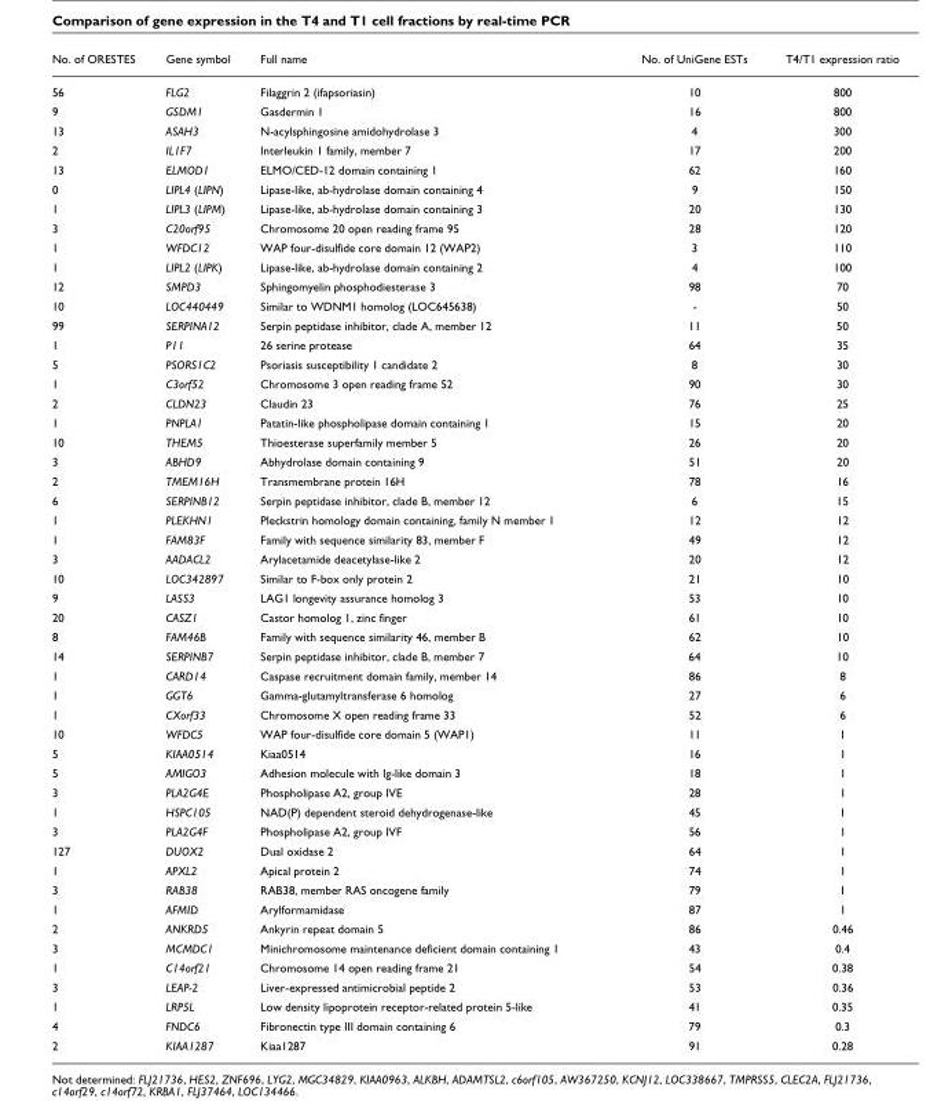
<table><thead><tr><td>No. of ORESTES</td><td>Gene symbol</td><td>Full name</td><td>No. of UniGene ESTs</td><td>T4/T1 expression ratio</td></tr></thead><tbody><tr><td>56</td><td>FLG2</td><td>Filaggrin 2 (ifapsoriasin)</td><td>10</td><td>800</td></tr><tr><td>9</td><td>GSDM1</td><td>Gasdermin 1</td><td>16</td><td>800</td></tr><tr><td>13</td><td>ASAH3</td><td>N-acylsphingosine amidohydrolase 3</td><td>4</td><td>300</td></tr><tr><td>2</td><td>IL1F7</td><td>Interleukin 1 family, member 7</td><td>17</td><td>200</td></tr><tr><td>13</td><td>ELMOD1</td><td>ELMO/CED-12 domain containing 1</td><td>62</td><td>160</td></tr><tr><td>0</td><td>LIPL4 (LIPN)</td><td>Lipase-like, ab-hydrolase domain containing 4</td><td>9</td><td>150</td></tr><tr><td>1</td><td>LIPL3 (LIPM)</td><td>Lipase-like, ab-hydrolase domain containing 3</td><td>20</td><td>130</td></tr><tr><td>3</td><td>C20orf95</td><td>Chromosome 20 open reading frame 95</td><td>28</td><td>120</td></tr><tr><td>1</td><td>WFDC12</td><td>WAP four-disulfide core domain 12 (WAP2)</td><td>3</td><td>110</td></tr><tr><td>1</td><td>LIPL2 (LIPK)</td><td>Lipase-like, ab-hydrolase domain containing 2</td><td>4</td><td>100</td></tr><tr><td>12</td><td>SMPD3</td><td>Sphingomyelin phosphodiesterase 3</td><td>98</td><td>70</td></tr><tr><td>10</td><td>LOC440449</td><td>Similar to WDNM1 homolog (LOC645638)</td><td>-</td><td>50</td></tr><tr><td>99</td><td>SERPINA12</td><td>Serpin peptidase inhibitor, clade A, member 12</td><td>11</td><td>50</td></tr><tr><td>1</td><td>P11</td><td>26 serine protease</td><td>64</td><td>35</td></tr><tr><td>5</td><td>PSORS1C2</td><td>Psoriasis susceptibility 1 candidate 2</td><td>8</td><td>30</td></tr><tr><td>1</td><td>C3orf52</td><td>Chromosome 3 open reading frame 52</td><td>90</td><td>30</td></tr><tr><td>2</td><td>CLDN23</td><td>Claudin 23</td><td>76</td><td>25</td></tr><tr><td>1</td><td>PNPLA1</td><td>Patatin-like phospholipase domain containing 1</td><td>15</td><td>20</td></tr><tr><td>10</td><td>THEM5</td><td>Thioesterase superfamily member 5</td><td>26</td><td>20</td></tr><tr><td>3</td><td>ABHD9</td><td>Abhydrolase domain containing 9</td><td>51</td><td>20</td></tr><tr><td>2</td><td>TMEM16H</td><td>Transmembrane protein 16H</td><td>78</td><td>16</td></tr><tr><td>6</td><td>SERPINB12</td><td>Serpin peptidase inhibitor, clade B, member 12</td><td>6</td><td>15</td></tr><tr><td>1</td><td>PLEKHN1</td><td>Pleckstrin homology domain containing, family N member 1</td><td>12</td><td>12</td></tr><tr><td>1</td><td>FAM83F</td><td>Family with sequence similarity 83, member F</td><td>49</td><td>12</td></tr><tr><td>3</td><td>AADACL2</td><td>Arylacetamide deacetylase-like 2</td><td>20</td><td>12</td></tr><tr><td>10</td><td>LOC342897</td><td>Similar to F-box only protein 2</td><td>21</td><td>10</td></tr><tr><td>9</td><td>LASS3</td><td>LAG1 longevity assurance homolog 3</td><td>53</td><td>10</td></tr><tr><td>20</td><td>CASZ1</td><td>Castor homolog 1, zinc finger</td><td>61</td><td>10</td></tr><tr><td>8</td><td>FAM46B</td><td>Family with sequence similarity 46, member B</td><td>62</td><td>10</td></tr><tr><td>14</td><td>SERPINB7</td><td>Serpin peptidase inhibitor, clade B, member 7</td><td>64</td><td>10</td></tr><tr><td>1</td><td>CARD14</td><td>Caspase recruitment domain family, member 14</td><td>86</td><td>8</td></tr><tr><td>1</td><td>GGT6</td><td>Gamma-glutamyltransferase 6 homolog</td><td>27</td><td>6</td></tr><tr><td>1</td><td>CXorf33</td><td>Chromosome X open reading frame 33</td><td>52</td><td>6</td></tr><tr><td>10</td><td>WFDC5</td><td>WAP four-disulfide core domain 5 (WAP1)</td><td>11</td><td>1</td></tr><tr><td>5</td><td>KIAA0514</td><td>Kiaa0514</td><td>16</td><td>1</td></tr><tr><td>5</td><td>AMIGO3</td><td>Adhesion molecule with Ig-like domain 3</td><td>18</td><td>1</td></tr><tr><td>3</td><td>PLA2G4E</td><td>Phospholipase A2, group IVE</td><td>28</td><td>1</td></tr><tr><td>1</td><td>HSPC105</td><td>NAD(P) dependent steroid dehydrogenase-like</td><td>45</td><td>1</td></tr><tr><td>3</td><td>PLA2G4F</td><td>Phospholipase A2, group IVF</td><td>56</td><td>1</td></tr><tr><td>127</td><td>DUOX2</td><td>Dual oxidase 2</td><td>64</td><td>1</td></tr><tr><td>1</td><td>APXL2</td><td>Apical protein 2</td><td>74</td><td>1</td></tr><tr><td>3</td><td>RAB38</td><td>RAB38, member RAS oncogene family</td><td>79</td><td>1</td></tr><tr><td>1</td><td>AFMID</td><td>Arylformamidase</td><td>87</td><td>1</td></tr><tr><td>2</td><td>ANKRD5</td><td>Ankyrin repeat domain 5</td><td>86</td><td>0.46</td></tr><tr><td>3</td><td>MCMDC1</td><td>Minichromosome maintenance deficient domain containing 1</td><td>43</td><td>0.4</td></tr><tr><td>1</td><td>C14orf21</td><td>Chromosome 14 open reading frame 21</td><td>54</td><td>0.38</td></tr><tr><td>3</td><td>LEAP-2</td><td>Liver-expressed antimicrobial peptide 2</td><td>53</td><td>0.36</td></tr><tr><td>1</td><td>LRP5L</td><td>Low density lipoprotein receptor-related protein 5-like</td><td>41</td><td>0.35</td></tr><tr><td>4</td><td>FNDC6</td><td>Fibronectin type III domain containing 6</td><td>79</td><td>0.3</td></tr><tr><td>2</td><td>KIAA1287</td><td>Kiaa1287</td><td>91</td><td>0.28</td></tr></tbody></table>